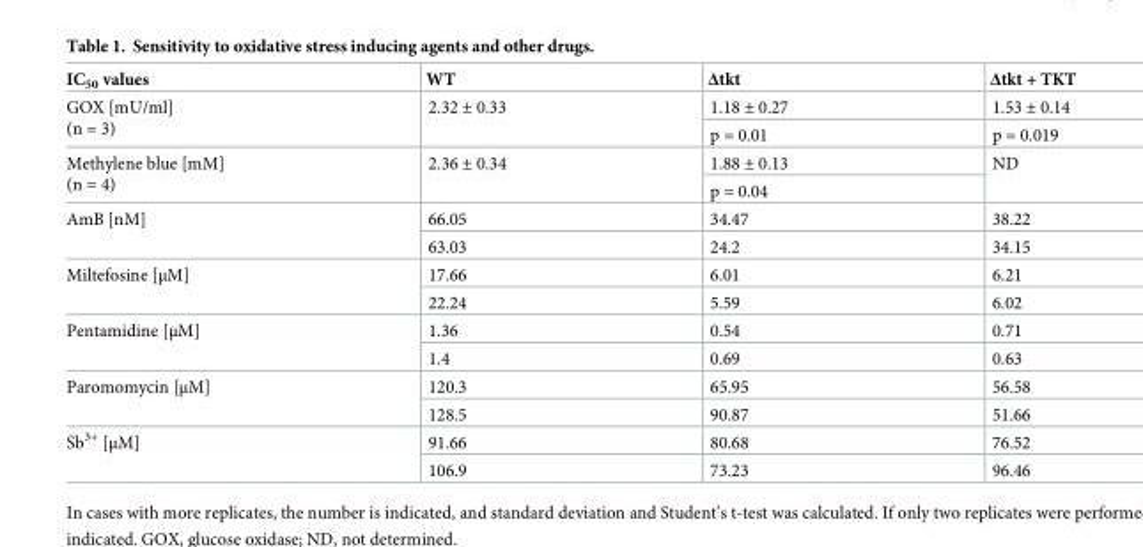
<table><thead><tr><td>IC<sub>50</sub> values</td><td>WT</td><td>Δtkt</td><td>Δtkt + TKT</td></tr></thead><tbody><tr><td rowspan="2">GOX [mU/ml] (n = 3)</td><td rowspan="2">2.32 ± 0.33</td><td>1.18 ± 0.27</td><td>1.53 ± 0.14</td></tr><tr><td>p = 0.01</td><td>p = 0.019</td></tr><tr><td rowspan="2">Methylene blue [mM] (n = 4)</td><td rowspan="2">2.36 ± 0.34</td><td>1.88 ± 0.13</td><td rowspan="2">ND</td></tr><tr><td>p = 0.04</td></tr><tr><td rowspan="2">AmB [nM]</td><td>66.05</td><td>34.47</td><td>38.22</td></tr><tr><td>63.03</td><td>24.2</td><td>34.15</td></tr><tr><td rowspan="2">Miltefosine [μM]</td><td>17.66</td><td>6.01</td><td>6.21</td></tr><tr><td>22.24</td><td>5.59</td><td>6.02</td></tr><tr><td rowspan="2">Pentamidine [μM]</td><td>1.36</td><td>0.54</td><td>0.71</td></tr><tr><td>1.4</td><td>0.69</td><td>0.63</td></tr><tr><td rowspan="2">Paromomycin [μM]</td><td>120.3</td><td>65.95</td><td>56.58</td></tr><tr><td>128.5</td><td>90.87</td><td>51.66</td></tr><tr><td rowspan="2">Sb<sup>3+</sup> [μM]</td><td>91.66</td><td>80.68</td><td>76.52</td></tr><tr><td>106.9</td><td>73.23</td><td>96.46</td></tr></tbody></table>